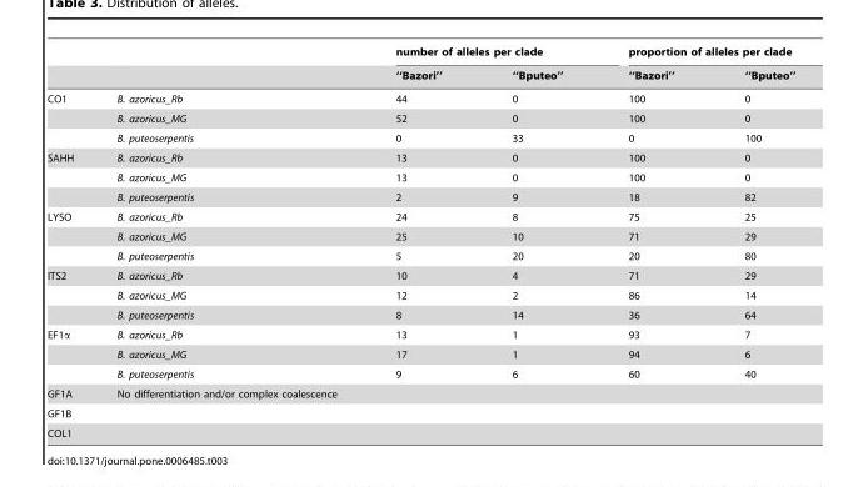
<table><thead><tr><td rowspan="2"></td><td rowspan="2"></td><td colspan="2">number of alleles per clade</td><td colspan="2">proportion of alleles per clade</td></tr><tr><td>‘‘Bazori’’</td><td>‘‘Bputeo’’</td><td>‘‘Bazori’’</td><td>‘‘Bputeo’’</td></tr></thead><tbody><tr><td rowspan="3">CO1</td><td>B. azoricus_Rb</td><td>44</td><td>0</td><td>100</td><td>0</td></tr><tr><td>B. azoricus_MG</td><td>52</td><td>0</td><td>100</td><td>0</td></tr><tr><td>B. puteoserpentis</td><td>0</td><td>33</td><td>0</td><td>100</td></tr><tr><td rowspan="3">SAHH</td><td>B. azoricus_Rb</td><td>13</td><td>0</td><td>100</td><td>0</td></tr><tr><td>B. azoricus_MG</td><td>13</td><td>0</td><td>100</td><td>0</td></tr><tr><td>B. puteoserpentis</td><td>2</td><td>9</td><td>18</td><td>82</td></tr><tr><td rowspan="3">LYSO</td><td>B. azoricus_Rb</td><td>24</td><td>8</td><td>75</td><td>25</td></tr><tr><td>B. azoricus_MG</td><td>25</td><td>10</td><td>71</td><td>29</td></tr><tr><td>B. puteoserpentis</td><td>5</td><td>20</td><td>20</td><td>80</td></tr><tr><td rowspan="3">ITS2</td><td>B. azoricus_Rb</td><td>10</td><td>4</td><td>71</td><td>29</td></tr><tr><td>B. azoricus_MG</td><td>12</td><td>2</td><td>86</td><td>14</td></tr><tr><td>B. puteoserpentis</td><td>8</td><td>14</td><td>36</td><td>64</td></tr><tr><td rowspan="3">EF1α</td><td>B. azoricus_Rb</td><td>13</td><td>1</td><td>93</td><td>7</td></tr><tr><td>B. azoricus_MG</td><td>17</td><td>1</td><td>94</td><td>6</td></tr><tr><td>B. puteoserpentis</td><td>9</td><td>6</td><td>60</td><td>40</td></tr><tr><td>GF1A</td><td colspan="5">No differentiation and/or complex coalescence</td></tr><tr><td colspan="6">GF1B</td></tr><tr><td>COL1</td><td colspan="5"></td></tr></tbody></table>